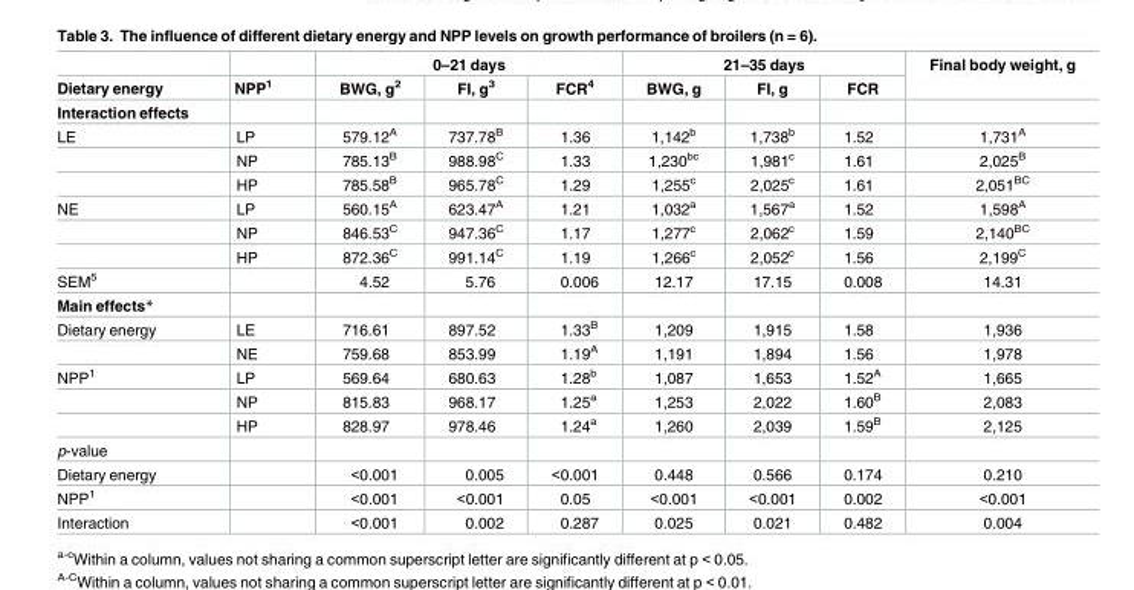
<table><thead><tr><td rowspan="2">Dietary energy</td><td rowspan="2">NPP<sup>1</sup></td><td colspan="3">0–21 days</td><td colspan="3">21–35 days</td><td rowspan="2">Final body weight, g</td></tr><tr><td>BWG, g<sup>2</sup></td><td>FI, g<sup>3</sup></td><td>FCR<sup>4</sup></td><td>BWG, g</td><td>FI, g</td><td>FCR</td></tr></thead><tbody><tr><td colspan="9">Interaction effects</td></tr><tr><td rowspan="3">LE</td><td>LP</td><td>579.12<sup>A</sup></td><td>737.78<sup>B</sup></td><td>1.36</td><td>1,142<sup>b</sup></td><td>1,738<sup>b</sup></td><td>1.52</td><td>1,731<sup>A</sup></td></tr><tr><td>NP</td><td>785.13<sup>B</sup></td><td>988.98<sup>C</sup></td><td>1.33</td><td>1,230<sup>bc</sup></td><td>1,981<sup>c</sup></td><td>1.61</td><td>2,025<sup>B</sup></td></tr><tr><td>HP</td><td>785.58<sup>B</sup></td><td>965.78<sup>C</sup></td><td>1.29</td><td>1,255<sup>c</sup></td><td>2,025<sup>c</sup></td><td>1.61</td><td>2,051<sup>BC</sup></td></tr><tr><td rowspan="3">NE</td><td>LP</td><td>560.15<sup>A</sup></td><td>623.47<sup>A</sup></td><td>1.21</td><td>1,032<sup>a</sup></td><td>1,567<sup>a</sup></td><td>1.52</td><td>1,598<sup>A</sup></td></tr><tr><td>NP</td><td>846.53<sup>C</sup></td><td>947.36<sup>C</sup></td><td>1.17</td><td>1,277<sup>c</sup></td><td>2,062<sup>c</sup></td><td>1.59</td><td>2,140<sup>BC</sup></td></tr><tr><td>HP</td><td>872.36<sup>C</sup></td><td>991.14<sup>C</sup></td><td>1.19</td><td>1,266<sup>c</sup></td><td>2,052<sup>c</sup></td><td>1.56</td><td>2,199<sup>C</sup></td></tr><tr><td>SEM<sup>5</sup></td><td></td><td>4.52</td><td>5.76</td><td>0.006</td><td>12.17</td><td>17.15</td><td>0.008</td><td>14.31</td></tr><tr><td colspan="9">Main effects*</td></tr><tr><td rowspan="2">Dietary energy</td><td>LE</td><td>716.61</td><td>897.52</td><td>1.33<sup>B</sup></td><td>1,209</td><td>1,915</td><td>1.58</td><td>1,936</td></tr><tr><td>NE</td><td>759.68</td><td>853.99</td><td>1.19<sup>A</sup></td><td>1,191</td><td>1,894</td><td>1.56</td><td>1,978</td></tr><tr><td rowspan="3">NPP<sup>1</sup></td><td>LP</td><td>569.64</td><td>680.63</td><td>1.28<sup>b</sup></td><td>1,087</td><td>1,653</td><td>1.52<sup>A</sup></td><td>1,665</td></tr><tr><td>NP</td><td>815.83</td><td>968.17</td><td>1.25<sup>a</sup></td><td>1,253</td><td>2,022</td><td>1.60<sup>B</sup></td><td>2,083</td></tr><tr><td>HP</td><td>828.97</td><td>978.46</td><td>1.24<sup>a</sup></td><td>1,260</td><td>2,039</td><td>1.59<sup>B</sup></td><td>2,125</td></tr><tr><td colspan="9">p-value</td></tr><tr><td>Dietary energy</td><td></td><td>&lt;0.001</td><td>0.005</td><td>&lt;0.001</td><td>0.448</td><td>0.566</td><td>0.174</td><td>0.210</td></tr><tr><td>NPP<sup>1</sup></td><td></td><td>&lt;0.001</td><td>&lt;0.001</td><td>0.05</td><td>&lt;0.001</td><td>&lt;0.001</td><td>0.002</td><td>&lt;0.001</td></tr><tr><td>Interaction</td><td></td><td>&lt;0.001</td><td>0.002</td><td>0.287</td><td>0.025</td><td>0.021</td><td>0.482</td><td>0.004</td></tr></tbody></table>